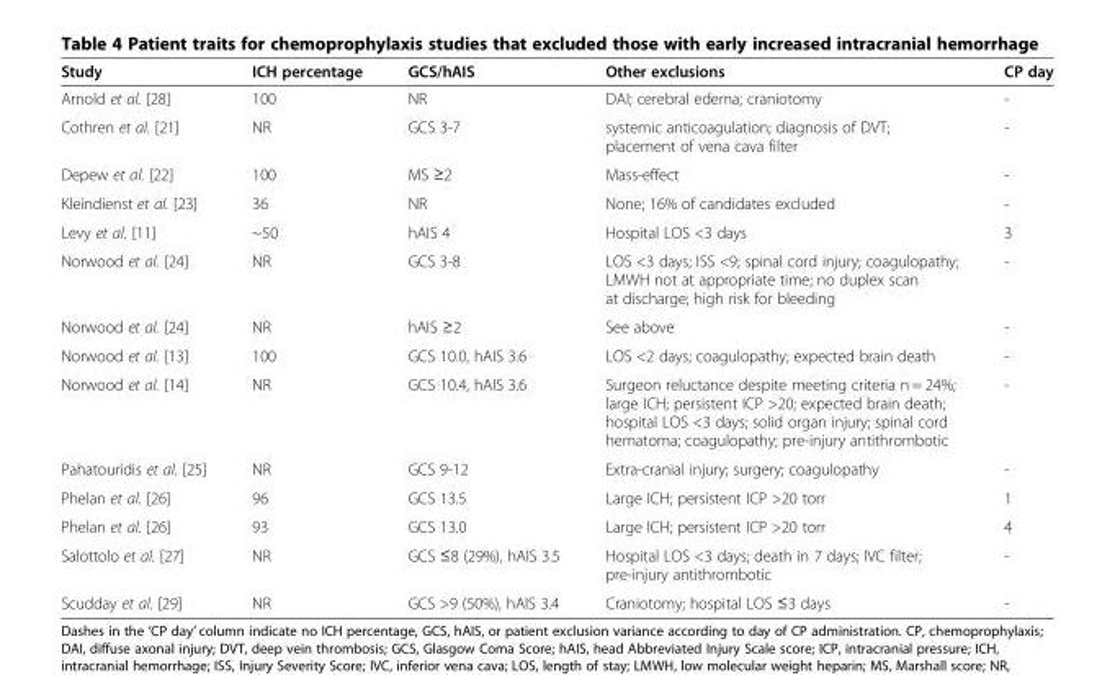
<table><thead><tr><td>Study</td><td>ICH percentage</td><td>GCS/hAIS</td><td>Other exclusions</td><td>CP day</td></tr></thead><tbody><tr><td>Arnold et al. [28]</td><td>100</td><td>NR</td><td>DAI; cerebral edema; craniotomy</td><td>-</td></tr><tr><td>Cothren et al. [21]</td><td>NR</td><td>GCS 3-7</td><td>systemic anticoagulation; diagnosis of DVT; placement of vena cava filter</td><td>-</td></tr><tr><td>Depew et al. [22]</td><td>100</td><td>MS ≥2</td><td>Mass-effect</td><td>-</td></tr><tr><td>Kleindienst et al. [23]</td><td>36</td><td>NR</td><td>None; 16% of candidates excluded</td><td>-</td></tr><tr><td>Levy et al. [11]</td><td>~50</td><td>hAIS 4</td><td>Hospital LOS &lt;3 days</td><td>3</td></tr><tr><td>Norwood et al. [24]</td><td>NR</td><td>GCS 3-8</td><td>LOS &lt;3 days; ISS &lt;9; spinal cord injury; coagulopathy; LMWH not at appropriate time; no duplex scan at discharge; high risk for bleeding</td><td>-</td></tr><tr><td>Norwood et al. [24]</td><td>NR</td><td>hAIS ≥2</td><td>See above</td><td>-</td></tr><tr><td>Norwood et al. [13]</td><td>100</td><td>GCS 10.0, hAIS 3.6</td><td>LOS &lt;2 days; coagulopathy; expected brain death</td><td>-</td></tr><tr><td>Norwood et al. [14]</td><td>NR</td><td>GCS 10.4, hAIS 3.6</td><td>Surgeon reluctance despite meeting criteria n = 24%; large ICH; persistent ICP &gt;20; expected brain death; hospital LOS &lt;3 days; solid organ injury; spinal cord hematoma; coagulopathy; pre-injury antithrombotic</td><td>-</td></tr><tr><td>Pahatouridis et al. [25]</td><td>NR</td><td>GCS 9-12</td><td>Extra-cranial injury; surgery; coagulopathy</td><td>-</td></tr><tr><td>Phelan et al. [26]</td><td>96</td><td>GCS 13.5</td><td>Large ICH; persistent ICP &gt;20 torr</td><td>1</td></tr><tr><td>Phelan et al. [26]</td><td>93</td><td>GCS 13.0</td><td>Large ICH; persistent ICP &gt;20 torr</td><td>4</td></tr><tr><td>Salottolo et al. [27]</td><td>NR</td><td>GCS ≤8 (29%), hAIS 3.5</td><td>Hospital LOS &lt;3 days; death in 7 days; IVC filter; pre-injury antithrombotic</td><td>-</td></tr><tr><td>Scudday et al. [29]</td><td>NR</td><td>GCS &gt;9 (50%), hAIS 3.4</td><td>Craniotomy; hospital LOS ≤3 days</td><td>-</td></tr></tbody></table>